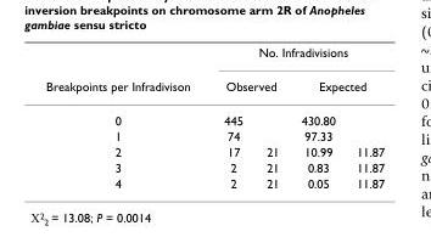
<table><thead><tr><td rowspan="3">Breakpoints per Infradivison 0</td><td colspan="4">No. Infradivisions</td></tr><tr><td colspan="2">Observed</td><td colspan="2">Expected</td></tr><tr><td>445</td><td></td><td>430.80</td><td></td></tr></thead><tbody><tr><td>1</td><td>74</td><td></td><td>97.33</td><td></td></tr><tr><td>2</td><td>17</td><td>21</td><td>10.99</td><td>11.87</td></tr><tr><td>3</td><td>2</td><td>21</td><td>0.83</td><td>11.87</td></tr><tr><td>4</td><td>2</td><td>21</td><td>0.05</td><td>11.87</td></tr></tbody></table>